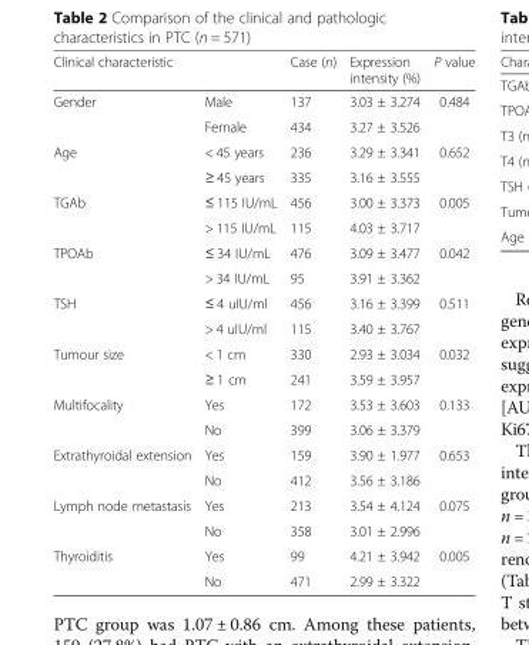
<table><thead><tr><td>Clinical characteristic</td><td></td><td>Case (n)</td><td>Expression intensity (%)</td><td>P value</td></tr></thead><tbody><tr><td rowspan="2">Gender</td><td>Male</td><td>137</td><td>3.03 ± 3.274</td><td>0.484</td></tr><tr><td>Female</td><td>434</td><td>3.27 ± 3.526</td><td></td></tr><tr><td rowspan="2">Age</td><td>&lt; 45 years</td><td>236</td><td>3.29 ± 3.341</td><td>0.652</td></tr><tr><td>≥ 45 years</td><td>335</td><td>3.16 ± 3.555</td><td></td></tr><tr><td rowspan="2">TGAb</td><td>≤ 115 IU/mL</td><td>456</td><td>3.00 ± 3.373</td><td>0.005</td></tr><tr><td>&gt; 115 IU/mL</td><td>115</td><td>4.03 ± 3.717</td><td></td></tr><tr><td rowspan="2">TPOAb</td><td>≤ 34 IU/mL</td><td>476</td><td>3.09 ± 3.477</td><td>0.042</td></tr><tr><td>&gt; 34 IU/mL</td><td>95</td><td>3.91 ± 3.362</td><td></td></tr><tr><td rowspan="2">TSH</td><td>≤ 4 uIU/ml</td><td>456</td><td>3.16 ± 3.399</td><td>0.511</td></tr><tr><td>&gt; 4 uIU/ml</td><td>115</td><td>3.40 ± 3.767</td><td></td></tr><tr><td rowspan="2">Tumour size</td><td>&lt; 1 cm</td><td>330</td><td>2.93 ± 3.034</td><td>0.032</td></tr><tr><td>≥ 1 cm</td><td>241</td><td>3.59 ± 3.957</td><td></td></tr><tr><td rowspan="2">Multifocality</td><td>Yes</td><td>172</td><td>3.53 ± 3.603</td><td>0.133</td></tr><tr><td>No</td><td>399</td><td>3.06 ± 3.379</td><td></td></tr><tr><td rowspan="2">Extrathyroidal extension</td><td>Yes</td><td>159</td><td>3.90 ± 1.977</td><td>0.653</td></tr><tr><td>No</td><td>412</td><td>3.56 ± 3.186</td><td></td></tr><tr><td rowspan="2">Lymph node metastasis</td><td>Yes</td><td>213</td><td>3.54 ± 4.124</td><td>0.075</td></tr><tr><td>No</td><td>358</td><td>3.01 ± 2.996</td><td></td></tr><tr><td rowspan="2">Thyroiditis</td><td>Yes</td><td>99</td><td>4.21 ± 3.942</td><td>0.005</td></tr><tr><td>No</td><td>471</td><td>2.99 ± 3.322</td><td></td></tr></tbody></table>